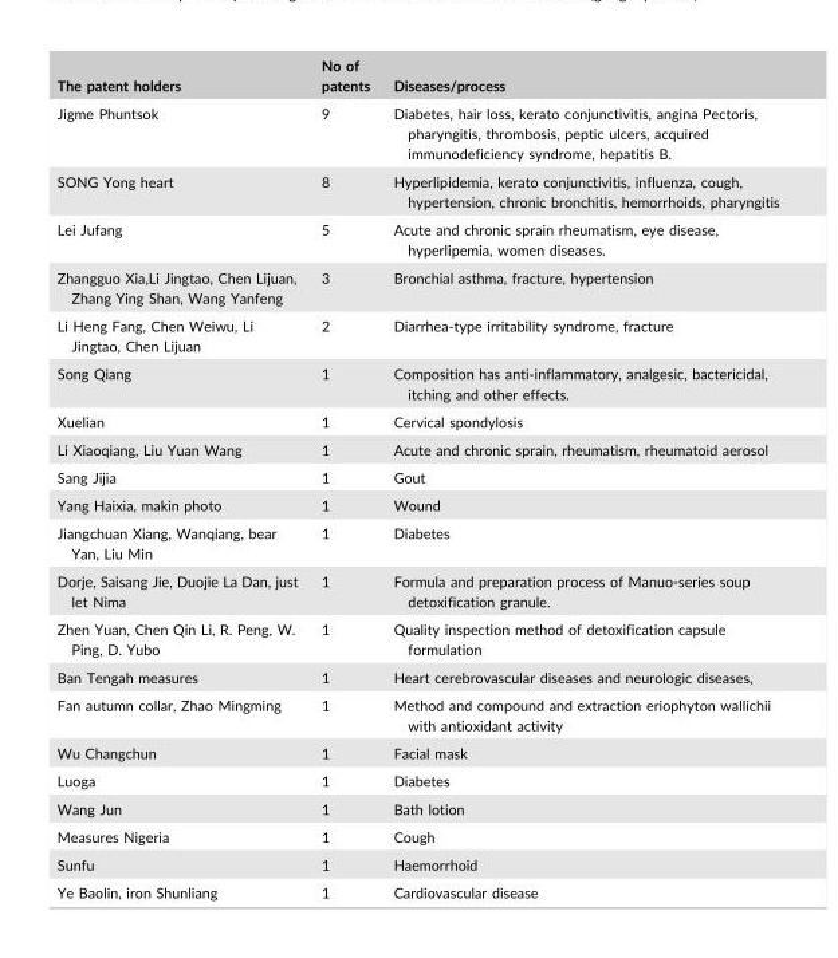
<table><thead><tr><td>The patent holders</td><td>No of patents</td><td>Diseases/process</td></tr></thead><tbody><tr><td>Jigme Phuntsok</td><td>9</td><td>Diabetes, hair loss, kerato conjunctivitis, angina Pectoris, pharyngitis, thrombosis, peptic ulcers, acquired immunodeficiency syndrome, hepatitis B.</td></tr><tr><td>SONG Yong heart</td><td>8</td><td>Hyperlipidemia, kerato conjunctivitis, influenza, cough, hypertension, chronic bronchitis, hemorrhoids, pharyngitis</td></tr><tr><td>Lei Jufang</td><td>5</td><td>Acute and chronic sprain rheumatism, eye disease, hyperlipemia, women diseases.</td></tr><tr><td>Zhangguo Xia,Li Jingtao, Chen Lijuan, Zhang Ying Shan, Wang Yanfeng</td><td>3</td><td>Bronchial asthma, fracture, hypertension</td></tr><tr><td>Li Heng Fang, Chen Weiwu, Li Jingtao, Chen Lijuan</td><td>2</td><td>Diarrhea-type irritability syndrome, fracture</td></tr><tr><td>Song Qiang</td><td>1</td><td>Composition has anti-inflammatory, analgesic, bactericidal, itching and other effects.</td></tr><tr><td>Xuelian</td><td>1</td><td>Cervical spondylosis</td></tr><tr><td>Li Xiaoqiang, Liu Yuan Wang</td><td>1</td><td>Acute and chronic sprain, rheumatism, rheumatoid aerosol</td></tr><tr><td>Sang Jijia</td><td>1</td><td>Gout</td></tr><tr><td>Yang Haixia, makin photo</td><td>1</td><td>Wound</td></tr><tr><td>Jiangchuan Xiang, Wanqiang, bear Yan, Liu Min</td><td>1</td><td>Diabetes</td></tr><tr><td>Dorje, Saisang Jie, Duojie La Dan, just let Nima</td><td>1</td><td>Formula and preparation process of Manuo-series soup detoxification granule.</td></tr><tr><td>Zhen Yuan, Chen Qin Li, R. Peng, W. Ping, D. Yubo</td><td>1</td><td>Quality inspection method of detoxification capsule formulation</td></tr><tr><td>Ban Tengah measures</td><td>1</td><td>Heart cerebrovascular diseases and neurologic diseases,</td></tr><tr><td>Fan autumn collar, Zhao Mingming</td><td>1</td><td>Method and compound and extraction eriophyton wallichii with antioxidant activity</td></tr><tr><td>Wu Changchun</td><td>1</td><td>Facial mask</td></tr><tr><td>Luoga</td><td>1</td><td>Diabetes</td></tr><tr><td>Wang Jun</td><td>1</td><td>Bath lotion</td></tr><tr><td>Measures Nigeria</td><td>1</td><td>Cough</td></tr><tr><td>Sunfu</td><td>1</td><td>Haemorrhoid</td></tr><tr><td>Ye Baolin, iron Shunliang</td><td>1</td><td>Cardiovascular disease</td></tr></tbody></table>